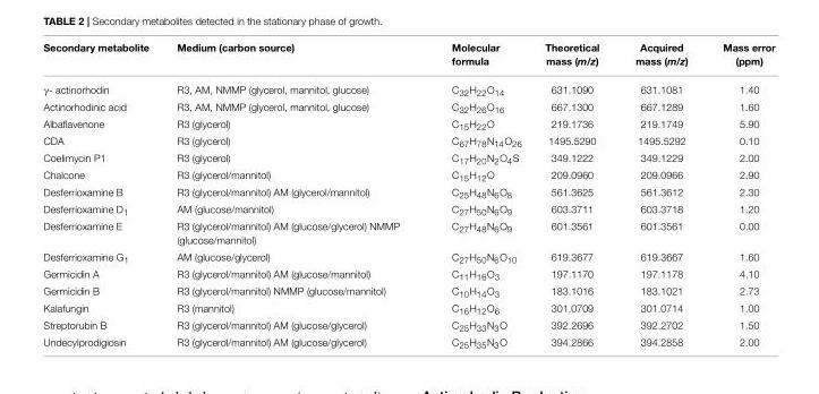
<table><thead><tr><td>Secondary metabolite</td><td>Medium (carbon source)</td><td>Molecular formula</td><td>Theoretical mass (m/z)</td><td>Acquired mass (m/z)</td><td>Mass error (ppm)</td></tr></thead><tbody><tr><td>γ- actinorhodin</td><td>R3, AM, NMMP (glycerol, mannitol, glucose)</td><td>C<sub>32</sub>H<sub>22</sub>O<sub>14</sub></td><td>631.1090</td><td>631.1081</td><td>1.40</td></tr><tr><td>Actinorhodinic acid</td><td>R3, AM, NMMP (glycerol, mannitol, glucose)</td><td>C<sub>32</sub>H<sub>26</sub>O<sub>16</sub></td><td>667.1300</td><td>667.1289</td><td>1.60</td></tr><tr><td>Albaflavenone</td><td>R3 (glycerol)</td><td>C<sub>15</sub>H<sub>22</sub>O</td><td>219.1736</td><td>219.1749</td><td>5.90</td></tr><tr><td>CDA</td><td>R3 (glycerol)</td><td>C<sub>67</sub>H<sub>78</sub>N<sub>14</sub>O<sub>26</sub></td><td>1495.5290</td><td>1495.5292</td><td>0.10</td></tr><tr><td>Coelimycin P1</td><td>R3 (glycerol)</td><td>C<sub>17</sub>H<sub>20</sub>N<sub>2</sub>O<sub>4</sub>S</td><td>349.1222</td><td>349.1229</td><td>2.00</td></tr><tr><td>Chalcone</td><td>R3 (glycerol/mannitol)</td><td>C<sub>15</sub>H<sub>12</sub>O</td><td>209.0960</td><td>209.0966</td><td>2.90</td></tr><tr><td>Desferrioxamine B</td><td>R3 (glycerol/mannitol) AM (glycerol/mannitol)</td><td>C<sub>25</sub>H<sub>48</sub>N<sub>6</sub>O<sub>8</sub></td><td>561.3625</td><td>561.3612</td><td>2.30</td></tr><tr><td>Desferrioxamine D<sub>1</sub></td><td>AM (glucose/mannitol)</td><td>C<sub>27</sub>H<sub>50</sub>N<sub>6</sub>O<sub>9</sub></td><td>603.3711</td><td>603.3718</td><td>1.20</td></tr><tr><td>Desferrioxamine E</td><td>R3 (glycerol/mannitol) AM (glucose/glycerol) NMMP (glucose/mannitol)</td><td>C<sub>27</sub>H<sub>48</sub>N<sub>6</sub>O<sub>9</sub></td><td>601.3561</td><td>601.3561</td><td>0.00</td></tr><tr><td>Desferrioxamine G<sub>1</sub></td><td>AM (glucose/glycerol)</td><td>C<sub>27</sub>H<sub>50</sub>N<sub>6</sub>O<sub>10</sub></td><td>619.3677</td><td>619.3667</td><td>1.60</td></tr><tr><td>Germicidin A</td><td>R3 (glycerol/mannitol) AM (glucose/mannitol)</td><td>C<sub>11</sub>H<sub>16</sub>O<sub>3</sub></td><td>197.1170</td><td>197.1178</td><td>4.10</td></tr><tr><td>Germicidin B</td><td>R3 (glycerol/mannitol) NMMP (glucose/mannitol)</td><td>C<sub>10</sub>H<sub>14</sub>O<sub>3</sub></td><td>183.1016</td><td>183.1021</td><td>2.73</td></tr><tr><td>Kalafungin</td><td>R3 (mannitol)</td><td>C<sub>16</sub>H<sub>12</sub>O<sub>6</sub></td><td>301.0709</td><td>301.0714</td><td>1.00</td></tr><tr><td>Streptorubin B</td><td>R3 (glycerol/mannitol) AM (glucose/glycerol)</td><td>C<sub>25</sub>H<sub>33</sub>N<sub>3</sub>O</td><td>392.2696</td><td>392.2702</td><td>1.50</td></tr><tr><td>Undecylprodigiosin</td><td>R3 (glycerol/mannitol) AM (glucose/glycerol)</td><td>C<sub>25</sub>H<sub>35</sub>N<sub>3</sub>O</td><td>394.2866</td><td>394.2858</td><td>2.00</td></tr></tbody></table>